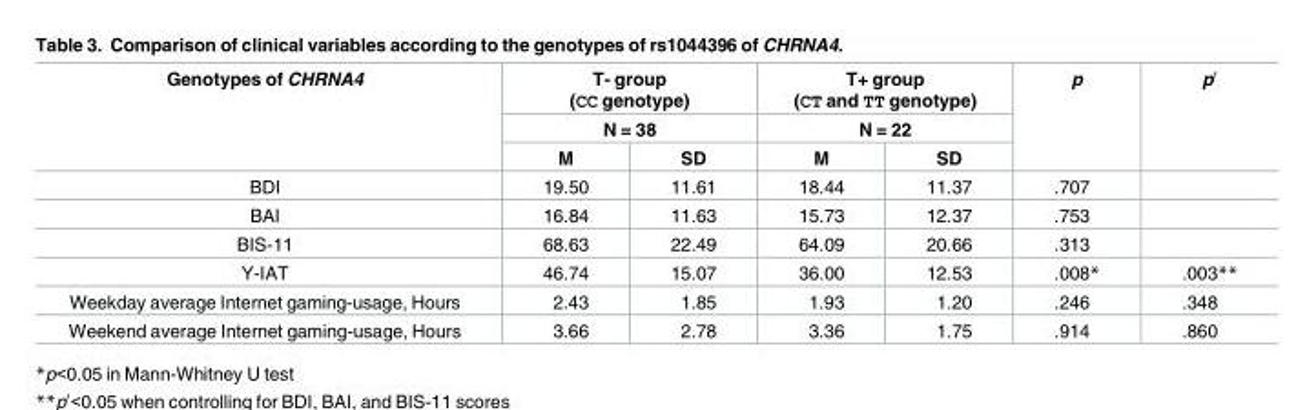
<table><thead><tr><td rowspan="3">Genotypes of CHRNA4</td><td rowspan="2" colspan="2">T- group (CC genotype) N = 38</td><td rowspan="2" colspan="2">T+ group (CT and TT genotype) N = 22</td><td rowspan="3">p</td><td rowspan="3">p′</td></tr><tr></tr><tr><td>M</td><td>SD</td><td>M</td><td>SD</td></tr></thead><tbody><tr><td>BDI</td><td>19.50</td><td>11.61</td><td>18.44</td><td>11.37</td><td>.707</td><td></td></tr><tr><td>BAI</td><td>16.84</td><td>11.63</td><td>15.73</td><td>12.37</td><td>.753</td><td></td></tr><tr><td>BIS-11</td><td>68.63</td><td>22.49</td><td>64.09</td><td>20.66</td><td>.313</td><td></td></tr><tr><td>Y-IAT</td><td>46.74</td><td>15.07</td><td>36.00</td><td>12.53</td><td>.008*</td><td>.003**</td></tr><tr><td>Weekday average Internet gaming-usage, Hours</td><td>2.43</td><td>1.85</td><td>1.93</td><td>1.20</td><td>.246</td><td>.348</td></tr><tr><td>Weekend average Internet gaming-usage, Hours</td><td>3.66</td><td>2.78</td><td>3.36</td><td>1.75</td><td>.914</td><td>.860</td></tr></tbody></table>